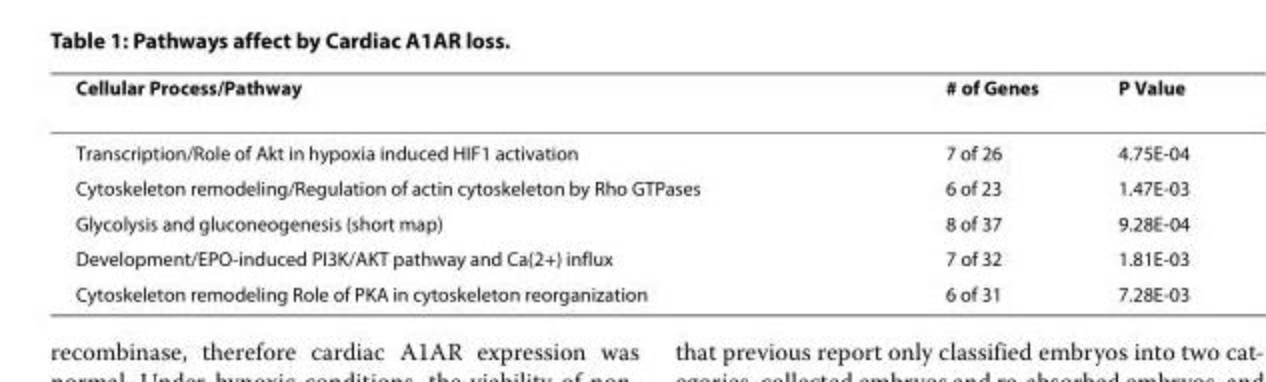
<table><thead><tr><td>Cellular Process/Pathway</td><td># of Genes</td><td>P Value</td></tr></thead><tbody><tr><td>Transcription/Role of Akt in hypoxia induced HIF1 activation</td><td>7 of 26</td><td>4.75E-04</td></tr><tr><td>Cytoskeleton remodeling/Regulation of actin cytoskeleton by Rho GTPases</td><td>6 of 23</td><td>1.47E-03</td></tr><tr><td>Glycolysis and gluconeogenesis (short map)</td><td>8 of 37</td><td>9.28E-04</td></tr><tr><td>Development/EPO-induced PI3K/AKT pathway and Ca(2+) influx</td><td>7 of 32</td><td>1.81E-03</td></tr><tr><td>Cytoskeleton remodeling Role of PKA in cytoskeleton reorganization</td><td>6 of 31</td><td>7.28E-03</td></tr></tbody></table>